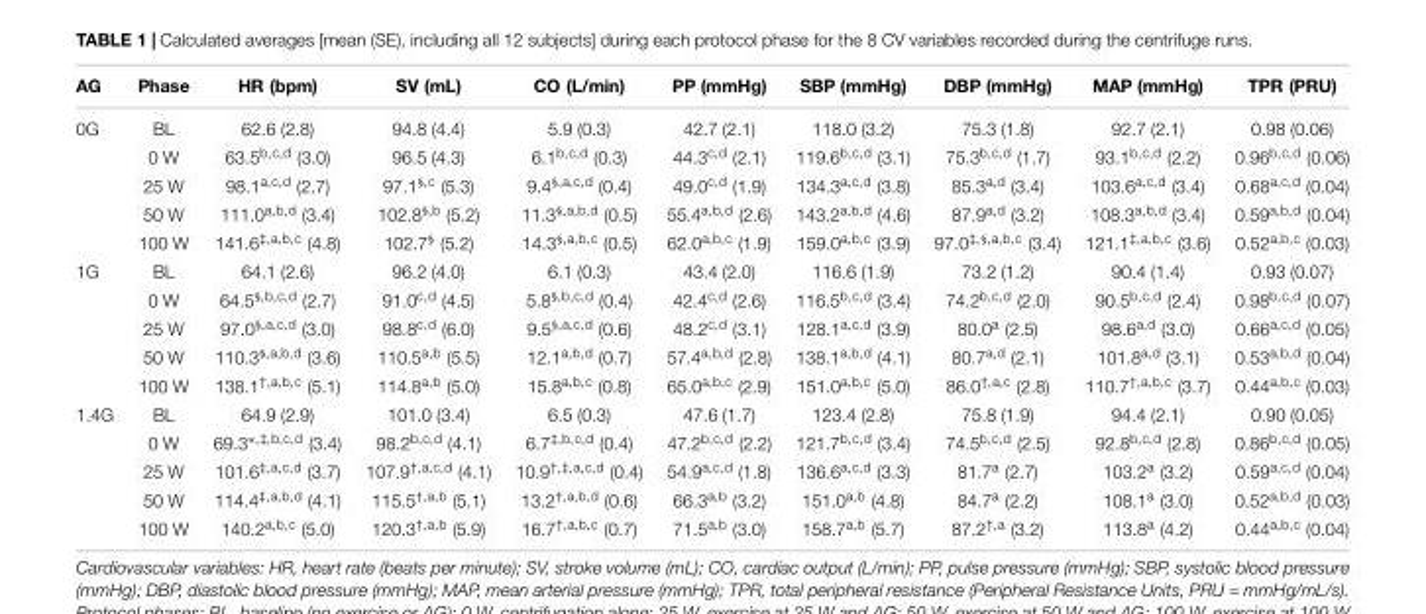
<table><thead><tr><td>AG</td><td>Phase</td><td>HR (bpm)</td><td>SV (mL)</td><td>CO (L/min)</td><td>PP (mmHg)</td><td>SBP (mmHg)</td><td>DBP (mmHg)</td><td>MAP (mmHg)</td><td>TPR (PRU)</td></tr></thead><tbody><tr><td rowspan="5">0G</td><td>BL</td><td>62.6 (2.8)</td><td>94.8 (4.4)</td><td>5.9 (0.3)</td><td>42.7 (2.1)</td><td>118.0 (3.2)</td><td>75.3 (1.8)</td><td>92.7 (2.1)</td><td>0.98 (0.06)</td></tr><tr><td>0 W</td><td>63.5<sup>b,c,d</sup> (3.0)</td><td>96.5 (4.3)</td><td>6.1<sup>b,c,d</sup> (0.3)</td><td>44.3<sup>c,d</sup> (2.1)</td><td>119.6<sup>b,c,d</sup> (3.1)</td><td>75.3<sup>b,c,d</sup> (1.7)</td><td>93.1<sup>b,c,d</sup> (2.2)</td><td>0.96<sup>b,c,d</sup> (0.06)</td></tr><tr><td>25 W</td><td>98.1<sup>a,c,d</sup> (2.7)</td><td>97.1<sup>§,c</sup> (5.3)</td><td>9.4<sup>§,a,c,d</sup> (0.4)</td><td>49.0<sup>c,d</sup> (1.9)</td><td>134.3<sup>a,c,d</sup> (3.8)</td><td>85.3<sup>a,d</sup> (3.4)</td><td>103.6<sup>a,c,d</sup> (3.4)</td><td>0.68<sup>a,c,d</sup> (0.04)</td></tr><tr><td>50 W</td><td>111.0<sup>a,b,d</sup> (3.4)</td><td>102.8<sup>§,b</sup> (5.2)</td><td>11.3<sup>§,a,b,d</sup> (0.5)</td><td>55.4<sup>a,b,d</sup> (2.6)</td><td>143.2<sup>a,b,d</sup> (4.6)</td><td>87.9<sup>a,d</sup> (3.2)</td><td>108.3<sup>a,b,d</sup> (3.4)</td><td>0.59<sup>a,b,d</sup> (0.04)</td></tr><tr><td>100 W</td><td>141.6<sup>‡,a,b,c</sup> (4.8)</td><td>102.7<sup>§</sup> (5.2)</td><td>14.3<sup>§,a,b,c</sup> (0.5)</td><td>62.0<sup>a,b,c</sup> (1.9)</td><td>159.0<sup>a,b,c</sup> (3.9)</td><td>97.0<sup>‡,§,a,b,c</sup> (3.4)</td><td>121.1<sup>‡,a,b,c</sup> (3.6)</td><td>0.52<sup>a,b,c</sup> (0.03)</td></tr><tr><td rowspan="5">1G</td><td>BL</td><td>64.1 (2.6)</td><td>96.2 (4.0)</td><td>6.1 (0.3)</td><td>43.4 (2.0)</td><td>116.6 (1.9)</td><td>73.2 (1.2)</td><td>90.4 (1.4)</td><td>0.93 (0.07)</td></tr><tr><td>0 W</td><td>64.5<sup>§,b,c,d</sup> (2.7)</td><td>91.0<sup>c,d</sup> (4.5)</td><td>5.8<sup>§,b,c,d</sup> (0.4)</td><td>42.4<sup>c,d</sup> (2.6)</td><td>116.5<sup>b,c,d</sup> (3.4)</td><td>74.2<sup>b,c,d</sup> (2.0)</td><td>90.5<sup>b,c,d</sup> (2.4)</td><td>0.98<sup>b,c,d</sup> (0.07)</td></tr><tr><td>25 W</td><td>97.0<sup>§,a,c,d</sup> (3.0)</td><td>98.8<sup>c,d</sup> (6.0)</td><td>9.5<sup>§,a,c,d</sup> (0.6)</td><td>48.2<sup>c,d</sup> (3.1)</td><td>128.1<sup>a,c,d</sup> (3.9)</td><td>80.0<sup>a</sup> (2.5)</td><td>98.6<sup>a,d</sup> (3.0)</td><td>0.66<sup>a,c,d</sup> (0.05)</td></tr><tr><td>50 W</td><td>110.3<sup>§,a,b,d</sup> (3.6)</td><td>110.5<sup>a,b</sup> (5.5)</td><td>12.1<sup>a,b,d</sup> (0.7)</td><td>57.4<sup>a,b,d</sup> (2.8)</td><td>138.1<sup>a,b,d</sup> (4.1)</td><td>80.7<sup>a,d</sup> (2.1)</td><td>101.8<sup>a,d</sup> (3.1)</td><td>0.53<sup>a,b,d</sup> (0.04)</td></tr><tr><td>100 W</td><td>138.1<sup>†,a,b,c</sup> (5.1)</td><td>114.8<sup>a,b</sup> (5.0)</td><td>15.8<sup>a,b,c</sup> (0.8)</td><td>65.0<sup>a,b,c</sup> (2.9)</td><td>151.0<sup>a,b,c</sup> (5.0)</td><td>86.0<sup>†,a,c</sup> (2.8)</td><td>110.7<sup>†,a,b,c</sup> (3.7)</td><td>0.44<sup>a,b,c</sup> (0.03)</td></tr><tr><td rowspan="5">1.4G</td><td>BL</td><td>64.9 (2.9)</td><td>101.0 (3.4)</td><td>6.5 (0.3)</td><td>47.6 (1.7)</td><td>123.4 (2.8)</td><td>75.8 (1.9)</td><td>94.4 (2.1)</td><td>0.90 (0.05)</td></tr><tr><td>0 W</td><td>69.3<sup>∗,‡,b,c,d</sup> (3.4)</td><td>98.2<sup>b,c,d</sup> (4.1)</td><td>6.7<sup>‡,b,c,d</sup> (0.4)</td><td>47.2<sup>b,c,d</sup> (2.2)</td><td>121.7<sup>b,c,d</sup> (3.4)</td><td>74.5<sup>b,c,d</sup> (2.5)</td><td>92.8<sup>b,c,d</sup> (2.8)</td><td>0.86<sup>b,c,d</sup> (0.05)</td></tr><tr><td>25 W</td><td>101.6<sup>‡,a,c,d</sup> (3.7)</td><td>107.9<sup>†,a,c,d</sup> (4.1)</td><td>10.9<sup>†,‡,a,c,d</sup> (0.4)</td><td>54.9<sup>a,c,d</sup> (1.8)</td><td>136.6<sup>a,c,d</sup> (3.3)</td><td>81.7<sup>a</sup> (2.7)</td><td>103.2<sup>a</sup> (3.2)</td><td>0.59<sup>a,c,d</sup> (0.04)</td></tr><tr><td>50 W</td><td>114.4<sup>‡,a,b,d</sup> (4.1)</td><td>115.5<sup>†,a,b</sup> (5.1)</td><td>13.2<sup>†,a,b,d</sup> (0.6)</td><td>66.3<sup>a,b</sup> (3.2)</td><td>151.0<sup>a,b</sup> (4.8)</td><td>84.7<sup>a</sup> (2.2)</td><td>108.1<sup>a</sup> (3.0)</td><td>0.52<sup>a,b,d</sup> (0.03)</td></tr><tr><td>100 W</td><td>140.2<sup>a,b,c</sup> (5.0)</td><td>120.3<sup>†,a,b</sup> (5.9)</td><td>16.7<sup>†,a,b,c</sup> (0.7)</td><td>71.5<sup>a,b</sup> (3.0)</td><td>158.7<sup>a,b</sup> (5.7)</td><td>87.2<sup>†,a</sup> (3.2)</td><td>113.8<sup>a</sup> (4.2)</td><td>0.44<sup>a,b,c</sup> (0.04)</td></tr></tbody></table>